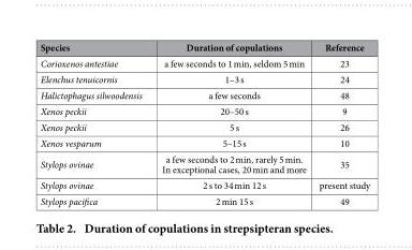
<table><thead><tr><td>Species</td><td>Duration of copulations</td><td>Reference</td></tr></thead><tbody><tr><td>Corioxenos antestiae</td><td>a few seconds to 1 min, seldom 5 min</td><td>23</td></tr><tr><td>Elenchus tenuicornis</td><td>1–3 s</td><td>24</td></tr><tr><td>Halictophagus silwoodensis</td><td>a few seconds</td><td>48</td></tr><tr><td>Xenos peckii</td><td>20–50 s</td><td>9</td></tr><tr><td>Xenos peckii</td><td>5 s</td><td>26</td></tr><tr><td>Xenos vesparum</td><td>5–15 s</td><td>10</td></tr><tr><td>Stylops ovinae</td><td>a few seconds to 2 min, rarely 5 min. In exceptional cases, 20 min and more</td><td>35</td></tr><tr><td>Stylops ovinae</td><td>2 s to 34 min 12 s</td><td>present study</td></tr><tr><td>Stylops pacifica</td><td>2 min 15 s</td><td>49</td></tr></tbody></table>